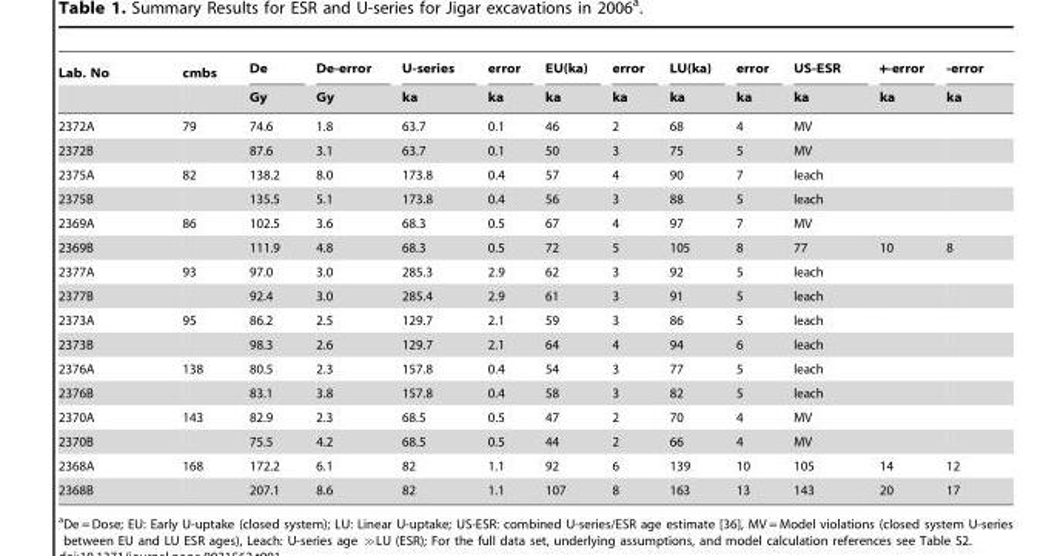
<table><thead><tr><td rowspan="2">Lab. No</td><td rowspan="2">cmbs</td><td rowspan="2">De Gy</td><td rowspan="2">De-error Gy</td><td rowspan="2">U-series ka</td><td rowspan="2">error ka</td><td rowspan="2">EU(ka) ka</td><td rowspan="2">error ka</td><td rowspan="2">LU(ka) ka</td><td rowspan="2">error ka</td><td rowspan="2">US-ESR ka</td><td rowspan="2">+-error ka</td><td rowspan="2">-error ka</td></tr><tr></tr></thead><tbody><tr><td>2372A</td><td>79</td><td>74.6</td><td>1.8</td><td>63.7</td><td>0.1</td><td>46</td><td>2</td><td>68</td><td>4</td><td>MV</td><td></td><td></td></tr><tr><td>2372B</td><td></td><td>87.6</td><td>3.1</td><td>63.7</td><td>0.1</td><td>50</td><td>3</td><td>75</td><td>5</td><td>MV</td><td></td><td></td></tr><tr><td>2375A</td><td>82</td><td>138.2</td><td>8.0</td><td>173.8</td><td>0.4</td><td>57</td><td>4</td><td>90</td><td>7</td><td>leach</td><td></td><td></td></tr><tr><td>2375B</td><td></td><td>135.5</td><td>5.1</td><td>173.8</td><td>0.4</td><td>56</td><td>3</td><td>88</td><td>5</td><td>leach</td><td></td><td></td></tr><tr><td>2369A</td><td>86</td><td>102.5</td><td>3.6</td><td>68.3</td><td>0.5</td><td>67</td><td>4</td><td>97</td><td>7</td><td>MV</td><td></td><td></td></tr><tr><td>2369B</td><td></td><td>111.9</td><td>4.8</td><td>68.3</td><td>0.5</td><td>72</td><td>5</td><td>105</td><td>8</td><td>77</td><td>10</td><td>8</td></tr><tr><td>2377A</td><td>93</td><td>97.0</td><td>3.0</td><td>285.3</td><td>2.9</td><td>62</td><td>3</td><td>92</td><td>5</td><td>leach</td><td></td><td></td></tr><tr><td>2377B</td><td></td><td>92.4</td><td>3.0</td><td>285.4</td><td>2.9</td><td>61</td><td>3</td><td>91</td><td>5</td><td>leach</td><td></td><td></td></tr><tr><td>2373A</td><td>95</td><td>86.2</td><td>2.5</td><td>129.7</td><td>2.1</td><td>59</td><td>3</td><td>86</td><td>5</td><td>leach</td><td></td><td></td></tr><tr><td>2373B</td><td></td><td>98.3</td><td>2.6</td><td>129.7</td><td>2.1</td><td>64</td><td>4</td><td>94</td><td>6</td><td>leach</td><td></td><td></td></tr><tr><td>2376A</td><td>138</td><td>80.5</td><td>2.3</td><td>157.8</td><td>0.4</td><td>54</td><td>3</td><td>77</td><td>5</td><td>leach</td><td></td><td></td></tr><tr><td>2376B</td><td></td><td>83.1</td><td>3.8</td><td>157.8</td><td>0.4</td><td>58</td><td>3</td><td>82</td><td>5</td><td>leach</td><td></td><td></td></tr><tr><td>2370A</td><td>143</td><td>82.9</td><td>2.3</td><td>68.5</td><td>0.5</td><td>47</td><td>2</td><td>70</td><td>4</td><td>MV</td><td></td><td></td></tr><tr><td>2370B</td><td></td><td>75.5</td><td>4.2</td><td>68.5</td><td>0.5</td><td>44</td><td>2</td><td>66</td><td>4</td><td>MV</td><td></td><td></td></tr><tr><td>2368A</td><td>168</td><td>172.2</td><td>6.1</td><td>82</td><td>1.1</td><td>92</td><td>6</td><td>139</td><td>10</td><td>105</td><td>14</td><td>12</td></tr><tr><td>2368B</td><td></td><td>207.1</td><td>8.6</td><td>82</td><td>1.1</td><td>107</td><td>8</td><td>163</td><td>13</td><td>143</td><td>20</td><td>17</td></tr></tbody></table>